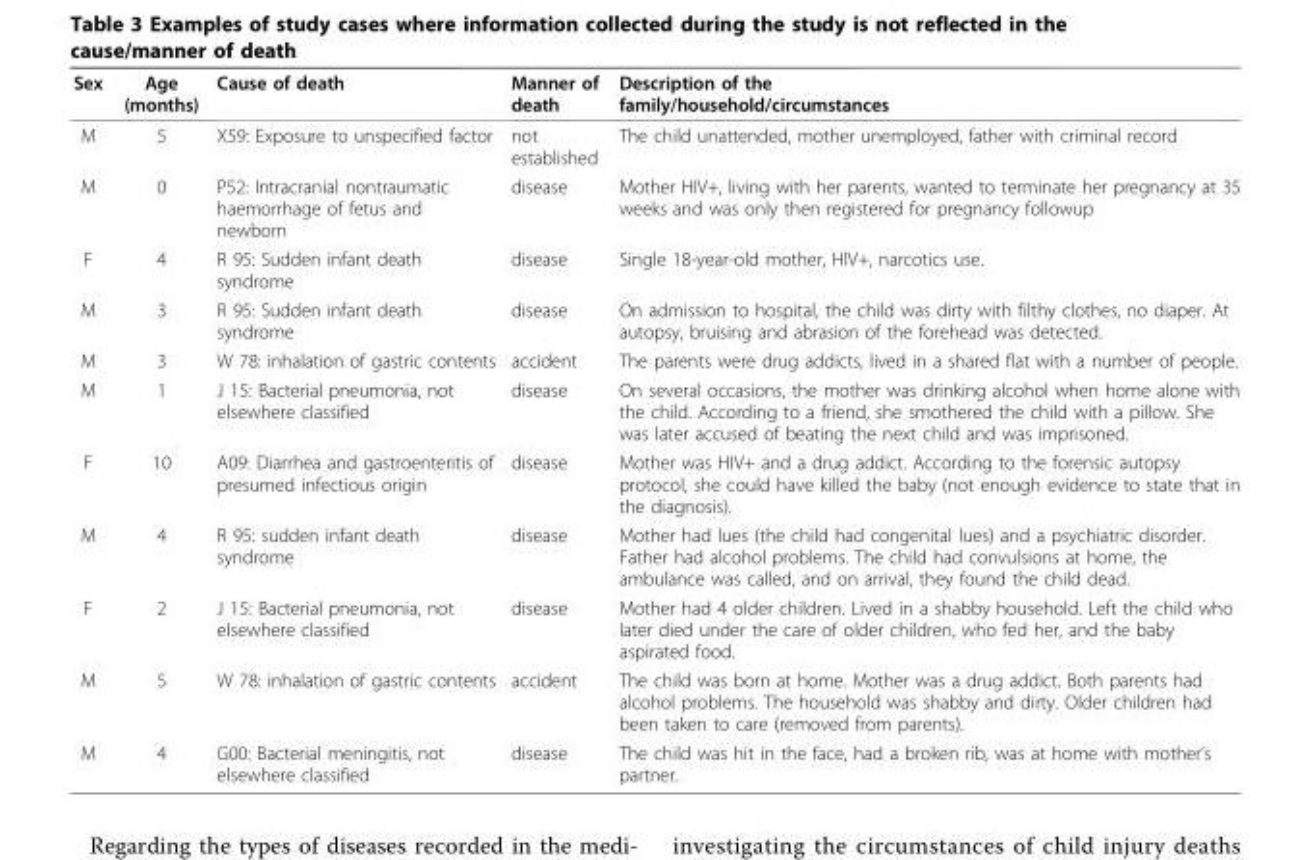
<table><thead><tr><td>Sex</td><td>Age (months)</td><td>Cause of death</td><td>Manner of death</td><td>Description of the family/household/circumstances</td></tr></thead><tbody><tr><td>M</td><td>5</td><td>X59: Exposure to unspecified factor</td><td>not established</td><td>The child unattended, mother unemployed, father with criminal record</td></tr><tr><td>M</td><td>0</td><td>P52: Intracranial nontraumatic haemorrhage of fetus and newborn</td><td>disease</td><td>Mother HIV+, living with her parents, wanted to terminate her pregnancy at 35 weeks and was only then registered for pregnancy followup</td></tr><tr><td>F</td><td>4</td><td>R 95: Sudden infant death syndrome</td><td>disease</td><td>Single 18-year-old mother, HIV+, narcotics use.</td></tr><tr><td>M</td><td>3</td><td>R 95: Sudden infant death syndrome</td><td>disease</td><td>On admission to hospital, the child was dirty with filthy clothes, no diaper. At autopsy, bruising and abrasion of the forehead was detected.</td></tr><tr><td>M</td><td>3</td><td>W 78: inhalation of gastric contents</td><td>accident</td><td>The parents were drug addicts, lived in a shared flat with a number of people.</td></tr><tr><td>M</td><td>1</td><td>J 15: Bacterial pneumonia, not elsewhere classified</td><td>disease</td><td>On several occasions, the mother was drinking alcohol when home alone with the child. According to a friend, she smothered the child with a pillow. She was later accused of beating the next child and was imprisoned.</td></tr><tr><td>F</td><td>10</td><td>A09: Diarrhea and gastroenteritis of presumed infectious origin</td><td>disease</td><td>Mother was HIV+ and a drug addict. According to the forensic autopsy protocol, she could have killed the baby (not enough evidence to state that in the diagnosis).</td></tr><tr><td>M</td><td>4</td><td>R 95: sudden infant death syndrome</td><td>disease</td><td>Mother had lues (the child had congenital lues) and a psychiatric disorder. Father had alcohol problems. The child had convulsions at home, the ambulance was called, and on arrival, they found the child dead.</td></tr><tr><td>F</td><td>2</td><td>J 15: Bacterial pneumonia, not elsewhere classified</td><td>disease</td><td>Mother had 4 older children. Lived in a shabby household. Left the child who later died under the care of older children, who fed her, and the baby aspirated food.</td></tr><tr><td>M</td><td>5</td><td>W 78: inhalation of gastric contents</td><td>accident</td><td>The child was born at home. Mother was a drug addict. Both parents had alcohol problems. The household was shabby and dirty. Older children had been taken to care (removed from parents).</td></tr><tr><td>M</td><td>4</td><td>G00: Bacterial meningitis, not elsewhere classified</td><td>disease</td><td>The child was hit in the face, had a broken rib, was at home with mother’s partner.</td></tr></tbody></table>